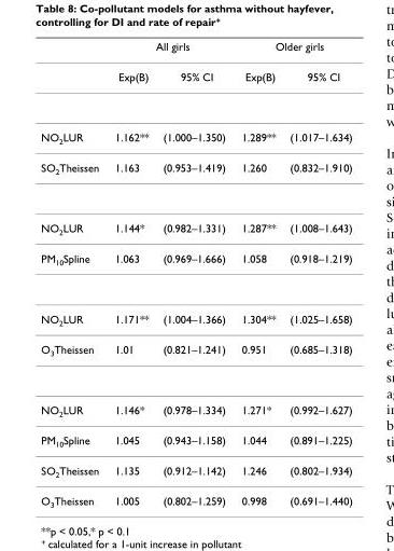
<table><thead><tr><td rowspan="2"></td><td colspan="2">All girls</td><td colspan="2">Older girls</td></tr><tr><td>Exp(B)</td><td>95% CI</td><td>Exp(B)</td><td>95% CI</td></tr></thead><tbody><tr><td>NO2LUR</td><td>1.162**</td><td>(1.000–1.350)</td><td>1.289**</td><td>(1.017–1.634)</td></tr><tr><td>SO2Theissen</td><td>1.163</td><td>(0.953–1.419)</td><td>1.260</td><td>(0.832–1.910)</td></tr><tr><td>NO2LUR</td><td>1.144*</td><td>(0.982–1.331)</td><td>1.287**</td><td>(1.008–1.643)</td></tr><tr><td>PM10Spline</td><td>1.063</td><td>(0.969–1.666)</td><td>1.058</td><td>(0.918–1.219)</td></tr><tr><td>NO2LUR</td><td>1.171**</td><td>(1.004–1.366)</td><td>1.304**</td><td>(1.025–1.658)</td></tr><tr><td>O3Theissen</td><td>1.01</td><td>(0.821–1.241)</td><td>0.951</td><td>(0.685–1.318)</td></tr><tr><td>NO2LUR</td><td>1.146*</td><td>(0.978–1.334)</td><td>1.271*</td><td>(0.992–1.627)</td></tr><tr><td>PM10Spline</td><td>1.045</td><td>(0.943–1.158)</td><td>1.044</td><td>(0.891–1.225)</td></tr><tr><td>SO2Theissen</td><td>1.135</td><td>(0.912–1.142)</td><td>1.246</td><td>(0.802–1.934)</td></tr><tr><td>O3Theissen</td><td>1.005</td><td>(0.802–1.259)</td><td>0.998</td><td>(0.691–1.440)</td></tr></tbody></table>